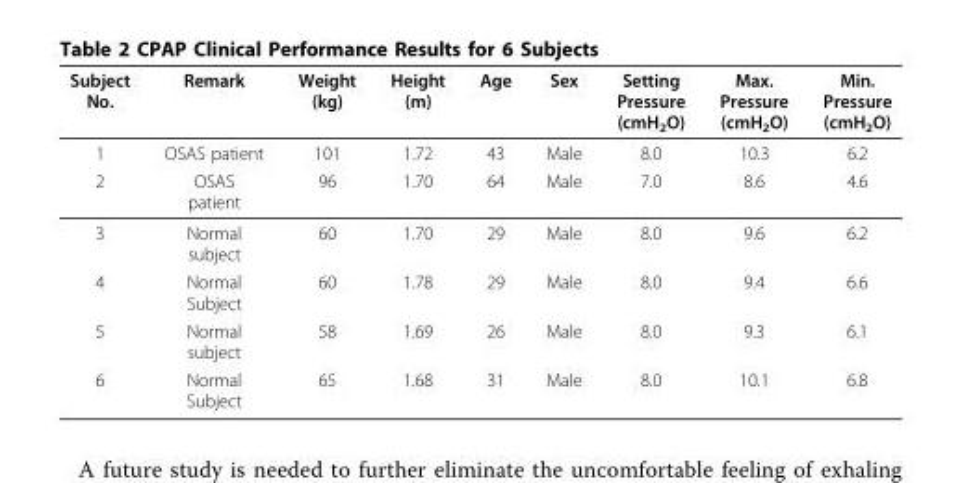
<table><thead><tr><td>Subject No.</td><td>Remark</td><td>Weight (kg)</td><td>Height (m)</td><td>Age</td><td>Sex</td><td>Setting Pressure (cmH<sub>2</sub>O)</td><td>Max. Pressure (cmH<sub>2</sub>O)</td><td>Min. Pressure (cmH<sub>2</sub>O)</td></tr></thead><tbody><tr><td>1</td><td>OSAS patient</td><td>101</td><td>1.72</td><td>43</td><td>Male</td><td>8.0</td><td>10.3</td><td>6.2</td></tr><tr><td>2</td><td>OSAS patient</td><td>96</td><td>1.70</td><td>64</td><td>Male</td><td>7.0</td><td>8.6</td><td>4.6</td></tr><tr><td>3</td><td>Normal subject</td><td>60</td><td>1.70</td><td>29</td><td>Male</td><td>8.0</td><td>9.6</td><td>6.2</td></tr><tr><td>4</td><td>Normal Subject</td><td>60</td><td>1.78</td><td>29</td><td>Male</td><td>8.0</td><td>9.4</td><td>6.6</td></tr><tr><td>5</td><td>Normal subject</td><td>58</td><td>1.69</td><td>26</td><td>Male</td><td>8.0</td><td>9.3</td><td>6.1</td></tr><tr><td>6</td><td>Normal Subject</td><td>65</td><td>1.68</td><td>31</td><td>Male</td><td>8.0</td><td>10.1</td><td>6.8</td></tr></tbody></table>